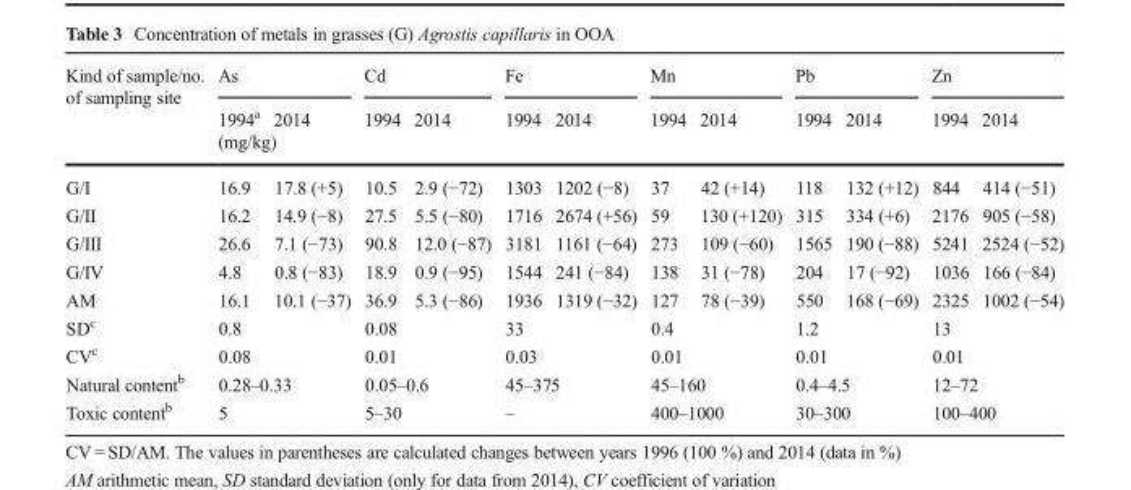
<table><thead><tr><td rowspan="3">Kind of sample/no. of sampling site</td><td colspan="2">As</td><td colspan="2">Cd</td><td colspan="2">Fe</td><td colspan="2">Mn</td><td colspan="2">Pb</td><td colspan="2">Zn</td></tr><tr><td>1994<sup>a</sup></td><td>2014</td><td>1994</td><td>2014</td><td>1994</td><td>2014</td><td>1994</td><td>2014</td><td>1994</td><td>2014</td><td>1994</td><td>2014</td></tr><tr><td colspan="12">(mg/kg)</td></tr></thead><tbody><tr><td>G/I</td><td>16.9</td><td>17.8 (+5)</td><td>10.5</td><td>2.9 (−72)</td><td>1303</td><td>1202 (−8)</td><td>37</td><td>42 (+14)</td><td>118</td><td>132 (+12)</td><td>844</td><td>414 (−51)</td></tr><tr><td>G/II</td><td>16.2</td><td>14.9 (−8)</td><td>27.5</td><td>5.5 (−80)</td><td>1716</td><td>2674 (+56)</td><td>59</td><td>130 (+120)</td><td>315</td><td>334 (+6)</td><td>2176</td><td>905 (−58)</td></tr><tr><td>G/III</td><td>26.6</td><td>7.1 (−73)</td><td>90.8</td><td>12.0 (−87)</td><td>3181</td><td>1161 (−64)</td><td>273</td><td>109 (−60)</td><td>1565</td><td>190 (−88)</td><td>5241</td><td>2524 (−52)</td></tr><tr><td>G/IV</td><td>4.8</td><td>0.8 (−83)</td><td>18.9</td><td>0.9 (−95)</td><td>1544</td><td>241 (−84)</td><td>138</td><td>31 (−78)</td><td>204</td><td>17 (−92)</td><td>1036</td><td>166 (−84)</td></tr><tr><td>AM</td><td>16.1</td><td>10.1 (−37)</td><td>36.9</td><td>5.3 (−86)</td><td>1936</td><td>1319 (−32)</td><td>127</td><td>78 (−39)</td><td>550</td><td>168 (−69)</td><td>2325</td><td>1002 (−54)</td></tr><tr><td>SD<sup>c</sup></td><td colspan="2">0.8</td><td colspan="2">0.08</td><td colspan="2">33</td><td colspan="2">0.4</td><td colspan="2">1.2</td><td colspan="2">13</td></tr><tr><td>CV<sup>c</sup></td><td colspan="2">0.08</td><td colspan="2">0.01</td><td colspan="2">0.03</td><td colspan="2">0.01</td><td colspan="2">0.01</td><td colspan="2">0.01</td></tr><tr><td>Natural content<sup>b</sup></td><td colspan="2">0.28–0.33</td><td colspan="2">0.05–0.6</td><td colspan="2">45–375</td><td colspan="2">45–160</td><td colspan="2">0.4–4.5</td><td colspan="2">12–72</td></tr><tr><td>Toxic content<sup>b</sup></td><td colspan="2">5</td><td colspan="2">5–30</td><td colspan="2">–</td><td colspan="2">400–1000</td><td colspan="2">30–300</td><td colspan="2">100–400</td></tr></tbody></table>